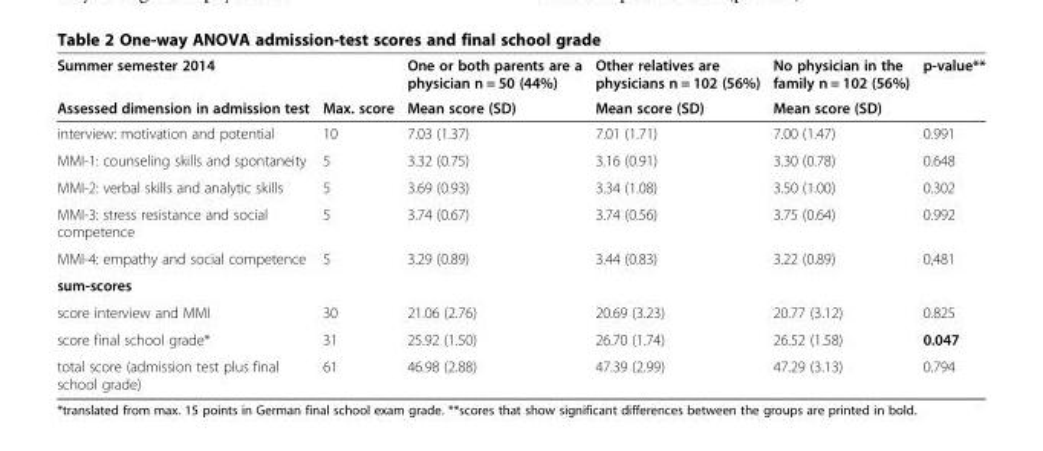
<table><thead><tr><td rowspan="2">Summer semester 2014 Assessed dimension in admission test</td><td rowspan="2">Max. score</td><td rowspan="2">One or both parents are a physician n = 50 (44%) Mean score (SD)</td><td rowspan="2">Other relatives are physicians n = 102 (56%) Mean score (SD)</td><td rowspan="2">No physician in the family n = 102 (56%) Mean score (SD)</td><td rowspan="2">p-value**</td></tr><tr></tr></thead><tbody><tr><td>interview: motivation and potential</td><td>10</td><td>7.03 (1.37)</td><td>7.01 (1.71)</td><td>7.00 (1.47)</td><td>0.991</td></tr><tr><td>MMI-1: counseling skills and spontaneity</td><td>5</td><td>3.32 (0.75)</td><td>3.16 (0.91)</td><td>3.30 (0.78)</td><td>0.648</td></tr><tr><td>MMI-2: verbal skills and analytic skills</td><td>5</td><td>3.69 (0.93)</td><td>3.34 (1.08)</td><td>3.50 (1.00)</td><td>0.302</td></tr><tr><td>MMI-3: stress resistance and social competence</td><td>5</td><td>3.74 (0.67)</td><td>3.74 (0.56)</td><td>3.75 (0.64)</td><td>0.992</td></tr><tr><td>MMI-4: empathy and social competence</td><td>5</td><td>3.29 (0.89)</td><td>3.44 (0.83)</td><td>3.22 (0.89)</td><td>0,481</td></tr><tr><td colspan="6">sum-scores</td></tr><tr><td>score interview and MMI</td><td>30</td><td>21.06 (2.76)</td><td>20.69 (3.23)</td><td>20.77 (3.12)</td><td>0.825</td></tr><tr><td>score final school grade*</td><td>31</td><td>25.92 (1.50)</td><td>26.70 (1.74)</td><td>26.52 (1.58)</td><td>0.047</td></tr><tr><td>total score (admission test plus final school grade)</td><td>61</td><td>46.98 (2.88)</td><td>47.39 (2.99)</td><td>47.29 (3.13)</td><td>0.794</td></tr></tbody></table>